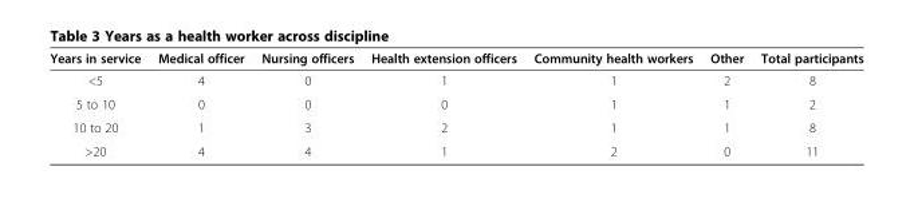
<table><thead><tr><td>Years in service</td><td>Medical officer</td><td>Nursing officers</td><td>Health extension officers</td><td>Community health workers</td><td>Other</td><td>Total participants</td></tr></thead><tbody><tr><td>&lt;5</td><td>4</td><td>0</td><td>1</td><td>1</td><td>2</td><td>8</td></tr><tr><td>5 to 10</td><td>0</td><td>0</td><td>0</td><td>1</td><td>1</td><td>2</td></tr><tr><td>10 to 20</td><td>1</td><td>3</td><td>2</td><td>1</td><td>1</td><td>8</td></tr><tr><td>&gt;20</td><td>4</td><td>4</td><td>1</td><td>2</td><td>0</td><td>11</td></tr></tbody></table>